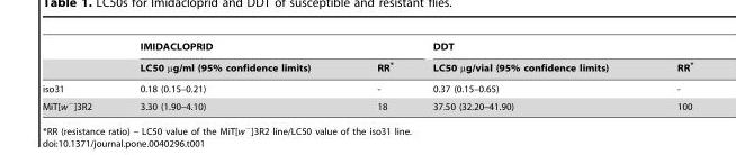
<table><thead><tr><td rowspan="2"></td><td colspan="2">IMIDACLOPRID</td><td colspan="2">DDT</td></tr><tr><td>LC50 µg/ml (95% confidence limits)</td><td>RR*</td><td>LC50 µg/vial (95% confidence limits)</td><td>RR*</td></tr></thead><tbody><tr><td>iso31</td><td>0.18 (0.15–0.21)</td><td>-</td><td>0.37 (0.15–0.65)</td><td>-</td></tr><tr><td>MiT[w<sup>−</sup>]3R2</td><td>3.30 (1.90–4.10)</td><td>18</td><td>37.50 (32.20–41.90)</td><td>100</td></tr></tbody></table>